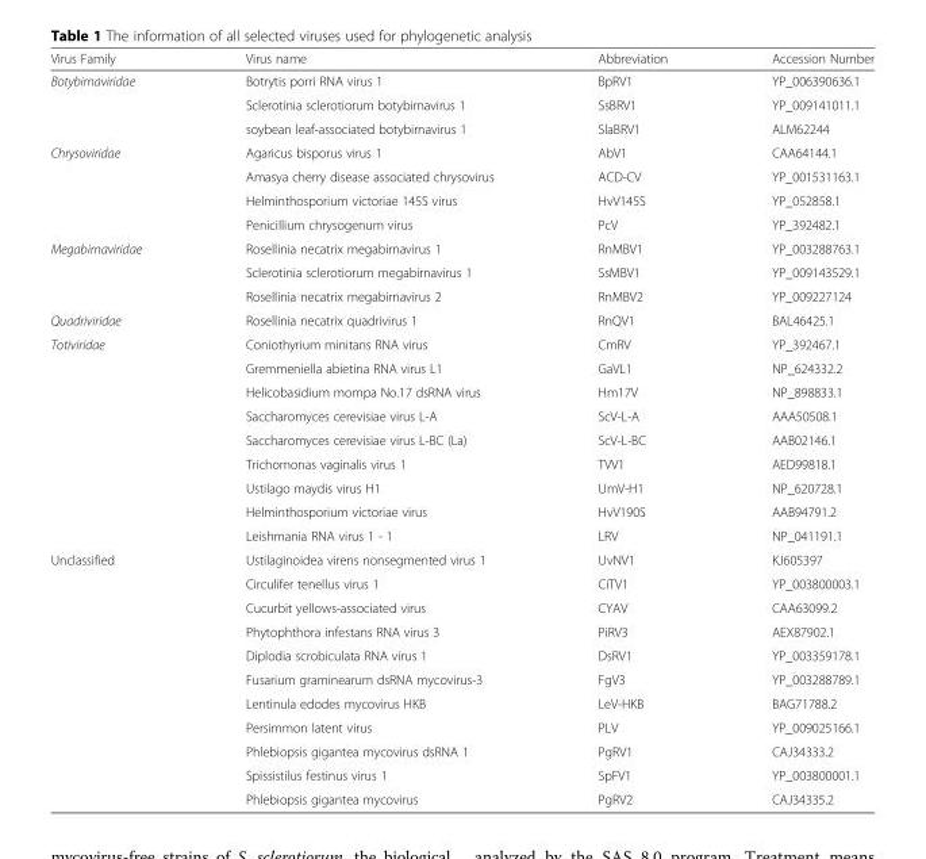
<table><thead><tr><td>Virus Family</td><td>Virus name</td><td>Abbreviation</td><td>Accession Number</td></tr></thead><tbody><tr><td rowspan="3">Botybirnaviridae</td><td>Botrytis porri RNA virus 1</td><td>BpRV1</td><td>YP_006390636.1</td></tr><tr><td>Sclerotinia sclerotiorum botybirnavirus 1</td><td>SsBRV1</td><td>YP_009141011.1</td></tr><tr><td>soybean leaf-associated botybirnavirus 1</td><td>SlaBRV1</td><td>ALM62244</td></tr><tr><td rowspan="4">Chrysoviridae</td><td>Agaricus bisporus virus 1</td><td>AbV1</td><td>CAA64144.1</td></tr><tr><td>Amasya cherry disease associated chrysovirus</td><td>ACD-CV</td><td>YP_001531163.1</td></tr><tr><td>Helminthosporium victoriae 145S virus</td><td>HvV145S</td><td>YP_052858.1</td></tr><tr><td>Penicillium chrysogenum virus</td><td>PcV</td><td>YP_392482.1</td></tr><tr><td rowspan="3">Megabirnaviridae</td><td>Rosellinia necatrix megabirnavirus 1</td><td>RnMBV1</td><td>YP_003288763.1</td></tr><tr><td>Sclerotinia sclerotiorum megabirnavirus 1</td><td>SsMBV1</td><td>YP_009143529.1</td></tr><tr><td>Rosellinia necatrix megabirnavirus 2</td><td>RnMBV2</td><td>YP_009227124</td></tr><tr><td>Quadriviridae</td><td>Rosellinia necatrix quadrivirus 1</td><td>RnQV1</td><td>BAL46425.1</td></tr><tr><td rowspan="9">Totiviridae</td><td>Coniothyrium minitans RNA virus</td><td>CmRV</td><td>YP_392467.1</td></tr><tr><td>Gremmeniella abietina RNA virus L1</td><td>GaVL1</td><td>NP_624332.2</td></tr><tr><td>Helicobasidium mompa No.17 dsRNA virus</td><td>Hm17V</td><td>NP_898833.1</td></tr><tr><td>Saccharomyces cerevisiae virus L-A</td><td>ScV-L-A</td><td>AAA50508.1</td></tr><tr><td>Saccharomyces cerevisiae virus L-BC (La)</td><td>ScV-L-BC</td><td>AAB02146.1</td></tr><tr><td>Trichomonas vaginalis virus 1</td><td>TVV1</td><td>AED99818.1</td></tr><tr><td>Ustilago maydis virus H1</td><td>UmV-H1</td><td>NP_620728.1</td></tr><tr><td>Helminthosporium victoriae virus</td><td>HvV190S</td><td>AAB94791.2</td></tr><tr><td>Leishmania RNA virus 1 - 1</td><td>LRV</td><td>NP_041191.1</td></tr><tr><td rowspan="11">Unclassified</td><td>Ustilaginoidea virens nonsegmented virus 1</td><td>UvNV1</td><td>KJ605397</td></tr><tr><td>Circulifer tenellus virus 1</td><td>CiTV1</td><td>YP_003800003.1</td></tr><tr><td>Cucurbit yellows-associated virus</td><td>CYAV</td><td>CAA63099.2</td></tr><tr><td>Phytophthora infestans RNA virus 3</td><td>PiRV3</td><td>AEX87902.1</td></tr><tr><td>Diplodia scrobiculata RNA virus 1</td><td>DsRV1</td><td>YP_003359178.1</td></tr><tr><td>Fusarium graminearum dsRNA mycovirus-3</td><td>FgV3</td><td>YP_003288789.1</td></tr><tr><td>Lentinula edodes mycovirus HKB</td><td>LeV-HKB</td><td>BAG71788.2</td></tr><tr><td>Persimmon latent virus</td><td>PLV</td><td>YP_009025166.1</td></tr><tr><td>Phlebiopsis gigantea mycovirus dsRNA 1</td><td>PgRV1</td><td>CAJ34333.2</td></tr><tr><td>Spissistilus festinus virus 1</td><td>SpFV1</td><td>YP_003800001.1</td></tr><tr><td>Phlebiopsis gigantea mycovirus</td><td>PgRV2</td><td>CAJ34335.2</td></tr></tbody></table>